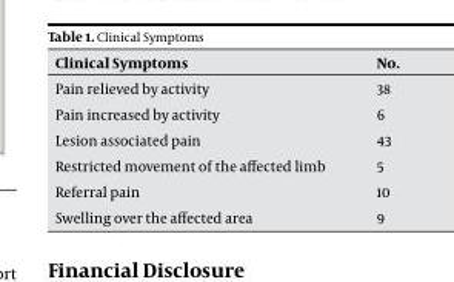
<table><thead><tr><td>clinical symptoms</td><td>no.</td></tr></thead><tbody><tr><td>Pain relieved by activity</td><td>38</td></tr><tr><td>Pain increased by activity</td><td>6</td></tr><tr><td>Lesion associated pain</td><td>43</td></tr><tr><td>Restricted movement of the affected limb</td><td>5</td></tr><tr><td>Referral pain</td><td>10</td></tr><tr><td>Swelling over the affected area</td><td>9</td></tr></tbody></table>